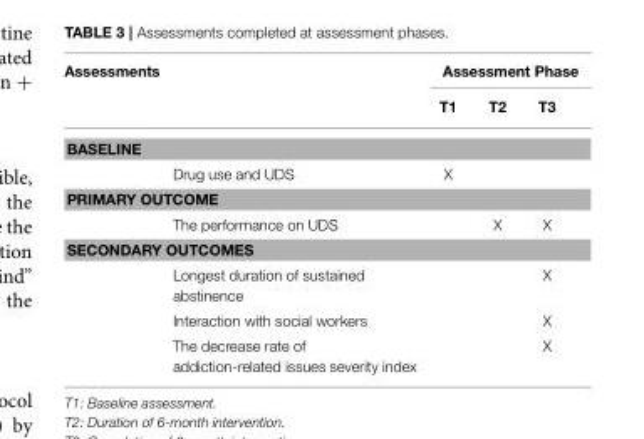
<table><thead><tr><td rowspan="2">Assessments</td><td rowspan="2"></td><td colspan="3">Assessment Phase</td></tr><tr><td>T1</td><td>T2</td><td>T3</td></tr></thead><tbody><tr><td colspan="5">BASELINE</td></tr><tr><td></td><td>Drug use and UDS</td><td>X</td><td></td><td></td></tr><tr><td colspan="5">PRIMARY OUTCOME</td></tr><tr><td></td><td>The performance on UDS</td><td></td><td>X</td><td>X</td></tr><tr><td colspan="5">SECONDARY OUTCOMES</td></tr><tr><td></td><td>Longest duration of sustained abstinence</td><td></td><td></td><td>X</td></tr><tr><td></td><td>Interaction with social workers</td><td></td><td></td><td>X</td></tr><tr><td></td><td>The decrease rate of addiction-related issues severity index</td><td></td><td></td><td>X</td></tr></tbody></table>